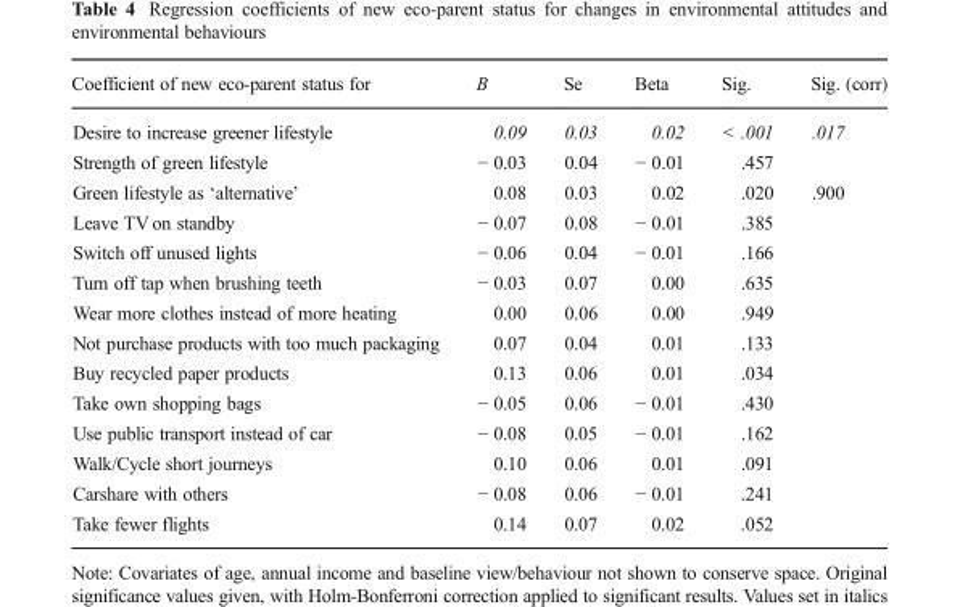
<table><thead><tr><td>Coefficient of new eco-parent status for</td><td>B</td><td>Se</td><td>Beta</td><td>Sig.</td><td>Sig. (corr)</td></tr></thead><tbody><tr><td>Desire to increase greener lifestyle</td><td>0.09</td><td>0.03</td><td>0.02</td><td>&lt; .001</td><td rowspan="2">.017</td></tr><tr><td>Strength of green lifestyle</td><td>− 0.03</td><td>0.04</td><td>− 0.01</td><td>.457</td></tr><tr><td>Green lifestyle as ‘alternative’</td><td>0.08</td><td>0.03</td><td>0.02</td><td>.020</td><td rowspan="12">.900</td></tr><tr><td>Leave TV on standby</td><td>− 0.07</td><td>0.08</td><td>− 0.01</td><td>.385</td></tr><tr><td>Switch off unused lights</td><td>− 0.06</td><td>0.04</td><td>− 0.01</td><td>.166</td></tr><tr><td>Turn off tap when brushing teeth</td><td>− 0.03</td><td>0.07</td><td>0.00</td><td>.635</td></tr><tr><td>Wear more clothes instead of more heating</td><td>0.00</td><td>0.06</td><td>0.00</td><td>.949</td></tr><tr><td>Not purchase products with too much packaging</td><td>0.07</td><td>0.04</td><td>0.01</td><td>.133</td></tr><tr><td>Buy recycled paper products</td><td>0.13</td><td>0.06</td><td>0.01</td><td>.034</td></tr><tr><td>Take own shopping bags</td><td>− 0.05</td><td>0.06</td><td>− 0.01</td><td>.430</td></tr><tr><td>Use public transport instead of car</td><td>− 0.08</td><td>0.05</td><td>− 0.01</td><td>.162</td></tr><tr><td>Walk/Cycle short journeys</td><td>0.10</td><td>0.06</td><td>0.01</td><td>.091</td></tr><tr><td>Carshare with others</td><td>− 0.08</td><td>0.06</td><td>− 0.01</td><td>.241</td></tr><tr><td>Take fewer flights</td><td>0.14</td><td>0.07</td><td>0.02</td><td>.052</td></tr></tbody></table>